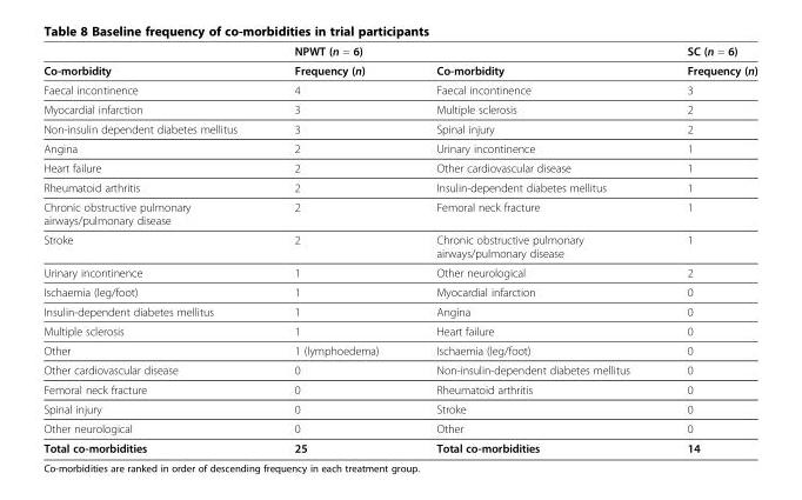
<table><thead><tr><td></td><td>NPWT (n = 6)</td><td></td><td>SC (n = 6)</td></tr></thead><tbody><tr><td>Co-morbidity</td><td>Frequency (n)</td><td>Co-morbidity</td><td>Frequency (n)</td></tr><tr><td>Faecal incontinence</td><td>4</td><td>Faecal incontinence</td><td>3</td></tr><tr><td>Myocardial infarction</td><td>3</td><td>Multiple sclerosis</td><td>2</td></tr><tr><td>Non-insulin dependent diabetes mellitus</td><td>3</td><td>Spinal injury</td><td>2</td></tr><tr><td>Angina</td><td>2</td><td>Urinary incontinence</td><td>1</td></tr><tr><td>Heart failure</td><td>2</td><td>Other cardiovascular disease</td><td>1</td></tr><tr><td>Rheumatoid arthritis</td><td>2</td><td>Insulin-dependent diabetes mellitus</td><td>1</td></tr><tr><td>Chronic obstructive pulmonary airways/pulmonary disease</td><td>2</td><td>Femoral neck fracture</td><td>1</td></tr><tr><td>Stroke</td><td>2</td><td>Chronic obstructive pulmonary airways/pulmonary disease</td><td>1</td></tr><tr><td>Urinary incontinence</td><td>1</td><td>Other neurological</td><td>2</td></tr><tr><td>Ischaemia (leg/foot)</td><td>1</td><td>Myocardial infarction</td><td>0</td></tr><tr><td>Insulin-dependent diabetes mellitus</td><td>1</td><td>Angina</td><td>0</td></tr><tr><td>Multiple sclerosis</td><td>1</td><td>Heart failure</td><td>0</td></tr><tr><td>Other</td><td>1 (lymphoedema)</td><td>Ischaemia (leg/foot)</td><td>0</td></tr><tr><td>Other cardiovascular disease</td><td>0</td><td>Non-insulin-dependent diabetes mellitus</td><td>0</td></tr><tr><td>Femoral neck fracture</td><td>0</td><td>Rheumatoid arthritis</td><td>0</td></tr><tr><td>Spinal injury</td><td>0</td><td>Stroke</td><td>0</td></tr><tr><td>Other neurological</td><td>0</td><td>Other</td><td>0</td></tr><tr><td>Total co-morbidities</td><td>25</td><td>Total co-morbidities</td><td>14</td></tr></tbody></table>